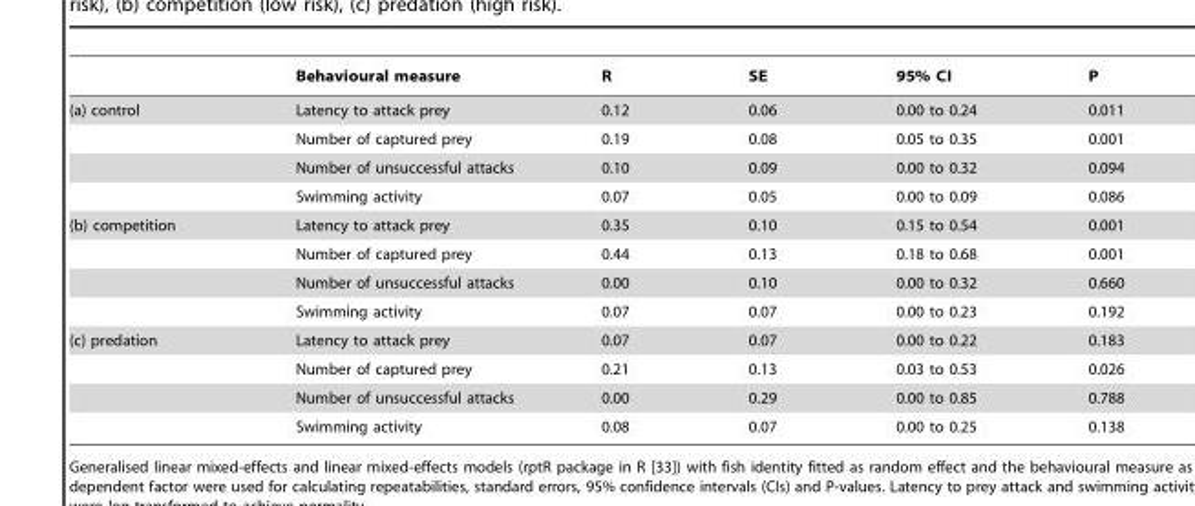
<table><thead><tr><td></td><td>Behavioural measure</td><td>R</td><td>SE</td><td>95% CI</td><td>P</td></tr></thead><tbody><tr><td rowspan="4">(a) control</td><td>Latency to attack prey</td><td>0.12</td><td>0.06</td><td>0.00 to 0.24</td><td>0.011</td></tr><tr><td>Number of captured prey</td><td>0.19</td><td>0.08</td><td>0.05 to 0.35</td><td>0.001</td></tr><tr><td>Number of unsuccessful attacks</td><td>0.10</td><td>0.09</td><td>0.00 to 0.32</td><td>0.094</td></tr><tr><td>Swimming activity</td><td>0.07</td><td>0.05</td><td>0.00 to 0.09</td><td>0.086</td></tr><tr><td rowspan="4">(b) competition</td><td>Latency to attack prey</td><td>0.35</td><td>0.10</td><td>0.15 to 0.54</td><td>0.001</td></tr><tr><td>Number of captured prey</td><td>0.44</td><td>0.13</td><td>0.18 to 0.68</td><td>0.001</td></tr><tr><td>Number of unsuccessful attacks</td><td>0.00</td><td>0.10</td><td>0.00 to 0.32</td><td>0.660</td></tr><tr><td>Swimming activity</td><td>0.07</td><td>0.07</td><td>0.00 to 0.23</td><td>0.192</td></tr><tr><td rowspan="4">(c) predation</td><td>Latency to attack prey</td><td>0.07</td><td>0.07</td><td>0.00 to 0.22</td><td>0.183</td></tr><tr><td>Number of captured prey</td><td>0.21</td><td>0.13</td><td>0.03 to 0.53</td><td>0.026</td></tr><tr><td>Number of unsuccessful attacks</td><td>0.00</td><td>0.29</td><td>0.00 to 0.85</td><td>0.788</td></tr><tr><td>Swimming activity</td><td>0.08</td><td>0.07</td><td>0.00 to 0.25</td><td>0.138</td></tr></tbody></table>